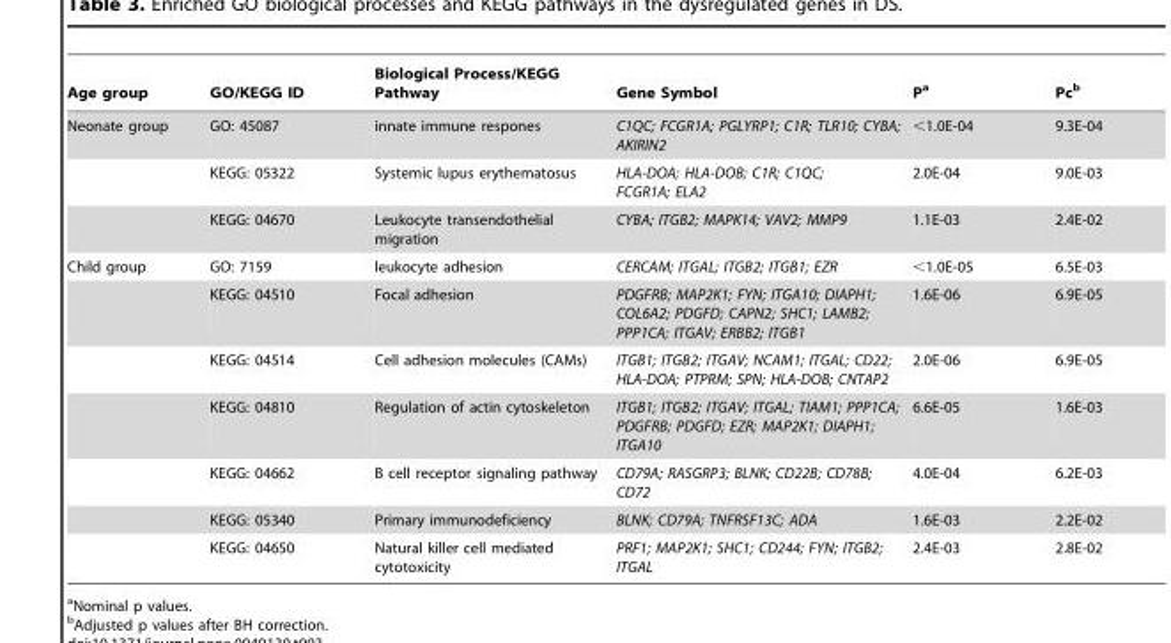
<table><thead><tr><td>Age group</td><td>GO/KEGG ID</td><td>Biological Process/KEGG Pathway</td><td>Gene Symbol</td><td>P<sup>a</sup></td><td>Pc<sup>b</sup></td></tr></thead><tbody><tr><td rowspan="3">Neonate group</td><td>GO: 45087</td><td>innate immune respones</td><td>C1QC; FCGR1A; PGLYRP1; C1R; TLR10; CYBA; AKIRIN2</td><td>&lt;1.0E-04</td><td>9.3E-04</td></tr><tr><td>KEGG: 05322</td><td>Systemic lupus erythematosus</td><td>HLA-DOA; HLA-DOB; C1R; C1QC; FCGR1A; ELA2</td><td>2.0E-04</td><td>9.0E-03</td></tr><tr><td>KEGG: 04670</td><td>Leukocyte transendothelial migration</td><td>CYBA; ITGB2; MAPK14; VAV2; MMP9</td><td>1.1E-03</td><td>2.4E-02</td></tr><tr><td rowspan="7">Child group</td><td>GO: 7159</td><td>leukocyte adhesion</td><td>CERCAM; ITGAL; ITGB2; ITGB1; EZR</td><td>&lt;1.0E-05</td><td>6.5E-03</td></tr><tr><td>KEGG: 04510</td><td>Focal adhesion</td><td>PDGFRB; MAP2K1; FYN; ITGA10; DIAPH1; COL6A2; PDGFD; CAPN2; SHC1; LAMB2; PPP1CA; ITGAV; ERBB2; ITGB1</td><td>1.6E-06</td><td>6.9E-05</td></tr><tr><td>KEGG: 04514</td><td>Cell adhesion molecules (CAMs)</td><td>ITGB1; ITGB2; ITGAV; NCAM1; ITGAL; CD22; HLA-DOA; PTPRM; SPN; HLA-DOB; CNTAP2</td><td>2.0E-06</td><td>6.9E-05</td></tr><tr><td>KEGG: 04810</td><td>Regulation of actin cytoskeleton</td><td>ITGB1; ITGB2; ITGAV; ITGAL; TIAM1; PPP1CA; PDGFRB; PDGFD; EZR; MAP2K1; DIAPH1; ITGA10</td><td>6.6E-05</td><td>1.6E-03</td></tr><tr><td>KEGG: 04662</td><td>B cell receptor signaling pathway</td><td>CD79A; RASGRP3; BLNK; CD22B; CD78B; CD72</td><td>4.0E-04</td><td>6.2E-03</td></tr><tr><td>KEGG: 05340</td><td>Primary immunodeficiency</td><td>BLNK; CD79A; TNFRSF13C; ADA</td><td>1.6E-03</td><td>2.2E-02</td></tr><tr><td>KEGG: 04650</td><td>Natural killer cell mediated cytotoxicity</td><td>PRF1; MAP2K1; SHC1; CD244; FYN; ITGB2; ITGAL</td><td>2.4E-03</td><td>2.8E-02</td></tr></tbody></table>